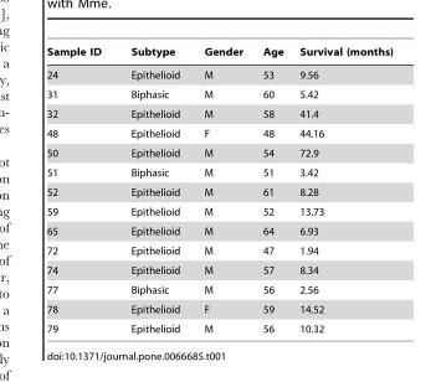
<table><thead><tr><td>Sample ID</td><td>Subtype</td><td>Gender</td><td>Age</td><td>Survival (months)</td></tr></thead><tbody><tr><td>24</td><td>Epithelioid</td><td>M</td><td>53</td><td>9.56</td></tr><tr><td>31</td><td>Biphasic</td><td>M</td><td>60</td><td>5.42</td></tr><tr><td>32</td><td>Epithelioid</td><td>M</td><td>58</td><td>41.4</td></tr><tr><td>48</td><td>Epithelioid</td><td>F</td><td>48</td><td>44.16</td></tr><tr><td>50</td><td>Epithelioid</td><td>M</td><td>54</td><td>72.9</td></tr><tr><td>51</td><td>Biphasic</td><td>M</td><td>51</td><td>3.42</td></tr><tr><td>52</td><td>Epithelioid</td><td>M</td><td>61</td><td>8.28</td></tr><tr><td>59</td><td>Epithelioid</td><td>M</td><td>52</td><td>13.73</td></tr><tr><td>65</td><td>Epithelioid</td><td>M</td><td>64</td><td>6.93</td></tr><tr><td>72</td><td>Epithelioid</td><td>M</td><td>47</td><td>1.94</td></tr><tr><td>74</td><td>Epithelioid</td><td>M</td><td>57</td><td>8.34</td></tr><tr><td>77</td><td>Biphasic</td><td>M</td><td>56</td><td>2.56</td></tr><tr><td>78</td><td>Epithelioid</td><td>F</td><td>59</td><td>14.52</td></tr><tr><td>79</td><td>Epithelioid</td><td>M</td><td>56</td><td>10.32</td></tr></tbody></table>